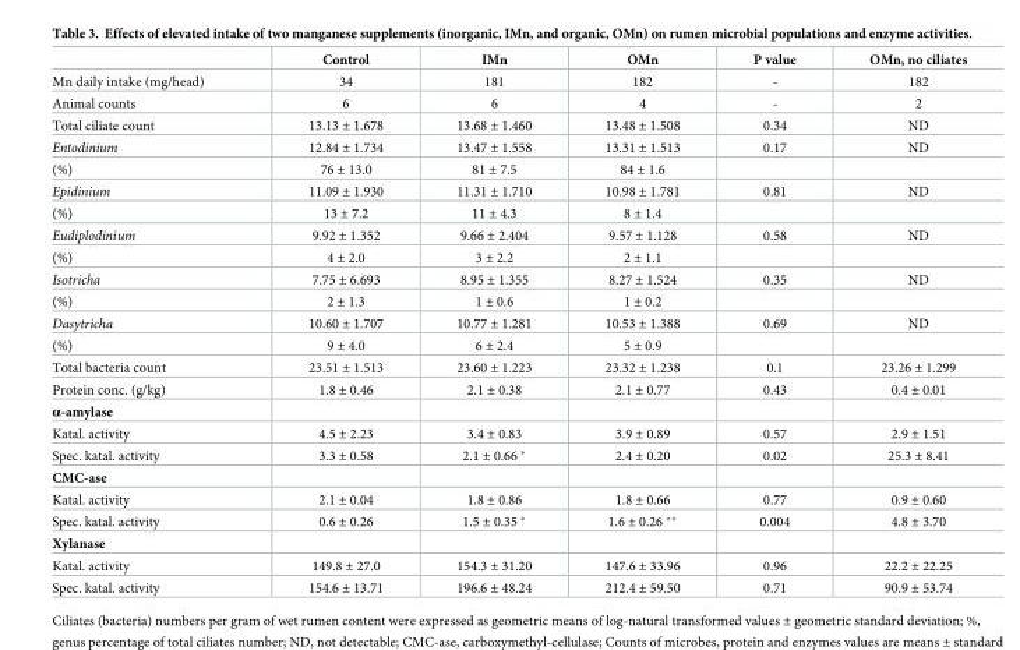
<table><thead><tr><td></td><td>Control</td><td>IMn</td><td>OMn</td><td>P value</td><td>OMn, no ciliates</td></tr></thead><tbody><tr><td>Mn daily intake (mg/head)</td><td>34</td><td>181</td><td>182</td><td>-</td><td>182</td></tr><tr><td>Animal counts</td><td>6</td><td>6</td><td>4</td><td>-</td><td>2</td></tr><tr><td>Total ciliate count</td><td>13.13 ± 1.678</td><td>13.68 ± 1.460</td><td>13.48 ± 1.508</td><td>0.34</td><td>ND</td></tr><tr><td>Entodinium</td><td>12.84 ± 1.734</td><td>13.47 ± 1.558</td><td>13.31 ± 1.513</td><td>0.17</td><td>ND</td></tr><tr><td>(%)</td><td>76 ± 13.0</td><td>81 ± 7.5</td><td>84 ± 1.6</td><td></td><td></td></tr><tr><td>Epidinium</td><td>11.09 ± 1.930</td><td>11.31 ± 1.710</td><td>10.98 ± 1.781</td><td>0.81</td><td>ND</td></tr><tr><td>(%)</td><td>13 ± 7.2</td><td>11 ± 4.3</td><td>8 ± 1.4</td><td></td><td></td></tr><tr><td>Eudiplodinium</td><td>9.92 ± 1.352</td><td>9.66 ± 2.404</td><td>9.57 ± 1.128</td><td>0.58</td><td>ND</td></tr><tr><td>(%)</td><td>4 ± 2.0</td><td>3 ± 2.2</td><td>2 ± 1.1</td><td></td><td></td></tr><tr><td>Isotricha</td><td>7.75 ± 6.693</td><td>8.95 ± 1.355</td><td>8.27 ± 1.524</td><td>0.35</td><td>ND</td></tr><tr><td>(%)</td><td>2 ± 1.3</td><td>1 ± 0.6</td><td>1 ± 0.2</td><td></td><td></td></tr><tr><td>Dasytricha</td><td>10.60 ± 1.707</td><td>10.77 ± 1.281</td><td>10.53 ± 1.388</td><td>0.69</td><td>ND</td></tr><tr><td>(%)</td><td>9 ± 4.0</td><td>6 ± 2.4</td><td>5 ± 0.9</td><td></td><td></td></tr><tr><td>Total bacteria count</td><td>23.51 ± 1.513</td><td>23.60 ± 1.223</td><td>23.32 ± 1.238</td><td>0.1</td><td>23.26 ± 1.299</td></tr><tr><td>Protein conc. (g/kg)</td><td>1.8 ± 0.46</td><td>2.1 ± 0.38</td><td>2.1 ± 0.77</td><td>0.43</td><td>0.4 ± 0.01</td></tr><tr><td colspan="6">α-amylase</td></tr><tr><td>Katal. activity</td><td>4.5 ± 2.23</td><td>3.4 ± 0.83</td><td>3.9 ± 0.89</td><td>0.57</td><td>2.9 ± 1.51</td></tr><tr><td>Spec. katal. activity</td><td>3.3 ± 0.58</td><td>2.1 ± 0.66 *</td><td>2.4 ± 0.20</td><td>0.02</td><td>25.3 ± 8.41</td></tr><tr><td colspan="6">CMC-ase</td></tr><tr><td>Katal. activity</td><td>2.1 ± 0.04</td><td>1.8 ± 0.86</td><td>1.8 ± 0.66</td><td>0.77</td><td>0.9 ± 0.60</td></tr><tr><td>Spec. katal. activity</td><td>0.6 ± 0.26</td><td>1.5 ± 0.35 *</td><td>1.6 ± 0.26 **</td><td>0.004</td><td>4.8 ± 3.70</td></tr><tr><td colspan="6">Xylanase</td></tr><tr><td>Katal. activity</td><td>149.8 ± 27.0</td><td>154.3 ± 31.20</td><td>147.6 ± 33.96</td><td>0.96</td><td>22.2 ± 22.25</td></tr><tr><td>Spec. katal. activity</td><td>154.6 ± 13.71</td><td>196.6 ± 48.24</td><td>212.4 ± 59.50</td><td>0.71</td><td>90.9 ± 53.74</td></tr></tbody></table>